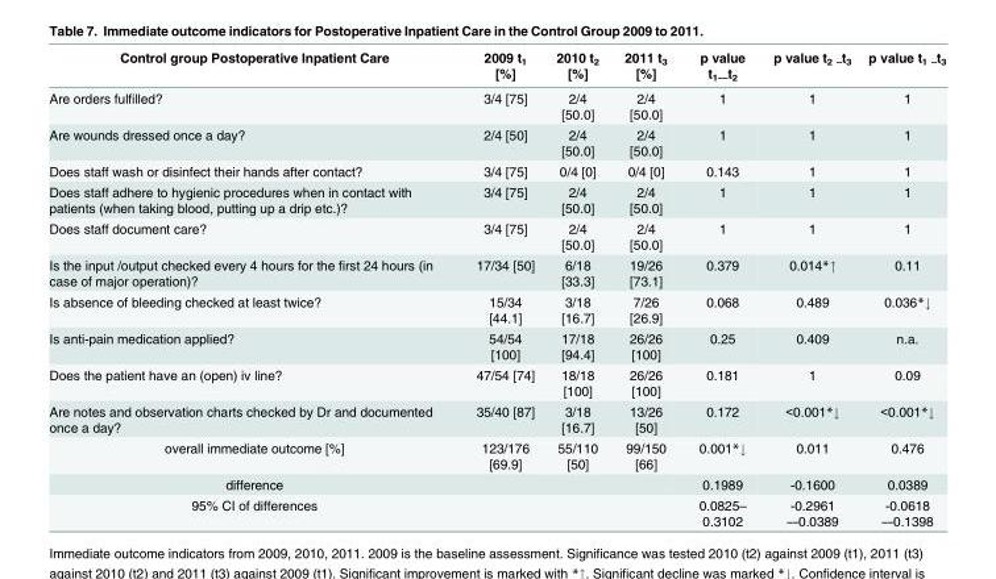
<table><thead><tr><td>Control group Postoperative Inpatient Care</td><td>2009 t<sub>1</sub> [%]</td><td>2010 t<sub>2</sub> [%]</td><td>2011 t<sub>3</sub> [%]</td><td>p value t<sub>1—</sub>t<sub>2</sub></td><td>p value t<sub>2 –</sub>t<sub>3</sub></td><td>p value t<sub>1 –</sub>t<sub>3</sub></td></tr></thead><tbody><tr><td>Are orders fulfilled?</td><td>3/4 [75]</td><td>2/4 [50.0]</td><td>2/4 [50.0]</td><td>1</td><td>1</td><td>1</td></tr><tr><td>Are wounds dressed once a day?</td><td>2/4 [50]</td><td>2/4 [50.0]</td><td>2/4 [50.0]</td><td>1</td><td>1</td><td>1</td></tr><tr><td>Does staff wash or disinfect their hands after contact?</td><td>3/4 [75]</td><td>0/4 [0]</td><td>0/4 [0]</td><td>0.143</td><td>1</td><td>1</td></tr><tr><td>Does staff adhere to hygienic procedures when in contact with patients (when taking blood, putting up a drip etc.)?</td><td>3/4 [75]</td><td>2/4 [50.0]</td><td>2/4 [50.0]</td><td>1</td><td>1</td><td>1</td></tr><tr><td>Does staff document care?</td><td>3/4 [75]</td><td>2/4 [50.0]</td><td>2/4 [50.0]</td><td>1</td><td>1</td><td>1</td></tr><tr><td>Is the input /output checked every 4 hours for the first 24 hours (in case of major operation)?</td><td>17/34 [50]</td><td>6/18 [33.3]</td><td>19/26 [73.1]</td><td>0.379</td><td>0.014*↑</td><td>0.11</td></tr><tr><td>Is absence of bleeding checked at least twice?</td><td>15/34 [44.1]</td><td>3/18 [16.7]</td><td>7/26 [26.9]</td><td>0.068</td><td>0.489</td><td>0.036*↓</td></tr><tr><td>Is anti-pain medication applied?</td><td>54/54 [100]</td><td>17/18 [94.4]</td><td>26/26 [100]</td><td>0.25</td><td>0.409</td><td>n.a.</td></tr><tr><td>Does the patient have an (open) iv line?</td><td>47/54 [74]</td><td>18/18 [100]</td><td>26/26 [100]</td><td>0.181</td><td>1</td><td>0.09</td></tr><tr><td>Are notes and observation charts checked by Dr and documented once a day?</td><td>35/40 [87]</td><td>3/18 [16.7]</td><td>13/26 [50]</td><td>0.172</td><td>&lt;0.001*↓</td><td>&lt;0.001*↓</td></tr><tr><td>overall immediate outcome [%]</td><td>123/176 [69.9]</td><td>55/110 [50]</td><td>99/150 [66]</td><td>0.001*↓</td><td>0.011</td><td>0.476</td></tr><tr><td>difference</td><td></td><td></td><td></td><td>0.1989</td><td>-0.1600</td><td>0.0389</td></tr><tr><td>95% CI of differences</td><td></td><td></td><td></td><td>0.0825– 0.3102</td><td>-0.2961 –-0.0389</td><td>-0.0618 –-0.1398</td></tr></tbody></table>